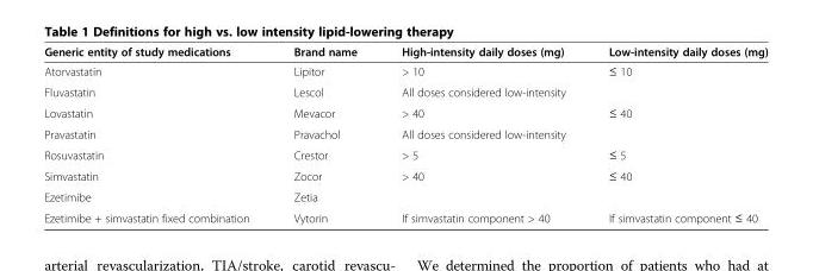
<table><thead><tr><td>Generic entity of study medications</td><td>Brand name</td><td>High-intensity daily doses (mg)</td><td>Low-intensity daily doses (mg)</td></tr></thead><tbody><tr><td>Atorvastatin</td><td>Lipitor</td><td>&gt; 10</td><td>≤ 10</td></tr><tr><td>Fluvastatin</td><td>Lescol</td><td colspan="2">All doses considered low-intensity</td></tr><tr><td>Lovastatin</td><td>Mevacor</td><td>&gt; 40</td><td>≤ 40</td></tr><tr><td>Pravastatin</td><td>Pravachol</td><td colspan="2">All doses considered low-intensity</td></tr><tr><td>Rosuvastatin</td><td>Crestor</td><td>&gt; 5</td><td>≤ 5</td></tr><tr><td>Simvastatin</td><td>Zocor</td><td>&gt; 40</td><td>≤ 40</td></tr><tr><td>Ezetimibe</td><td>Zetia</td><td></td><td></td></tr><tr><td>Ezetimibe + simvastatin fixed combination</td><td>Vytorin</td><td>If simvastatin component &gt; 40</td><td>If simvastatin component ≤ 40</td></tr></tbody></table>